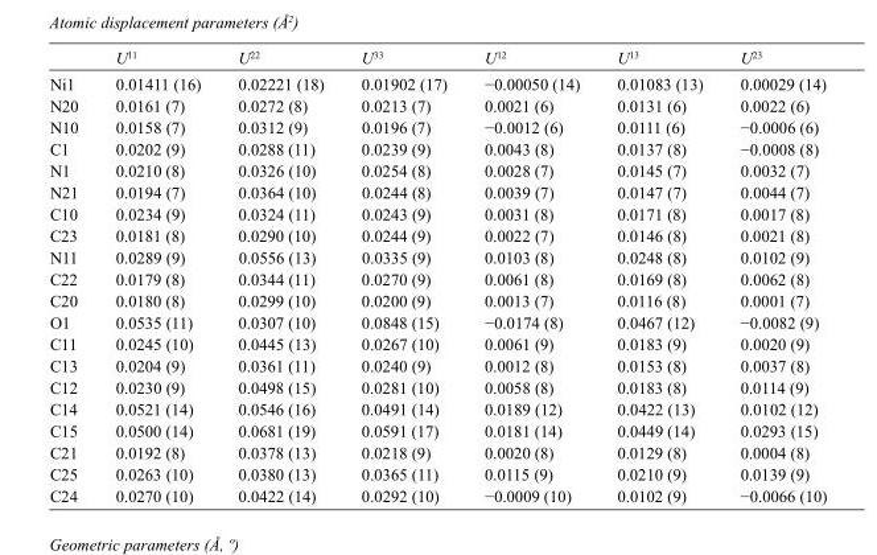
<table><thead><tr><td></td><td>U<sup>11</sup></td><td>U<sup>22</sup></td><td>U<sup>33</sup></td><td>U<sup>12</sup></td><td>U<sup>13</sup></td><td>U<sup>23</sup></td></tr></thead><tbody><tr><td>Ni1</td><td>0.01411 (16)</td><td>0.02221 (18)</td><td>0.01902 (17)</td><td>−0.00050 (14)</td><td>0.01083 (13)</td><td>0.00029 (14)</td></tr><tr><td>N20</td><td>0.0161 (7)</td><td>0.0272 (8)</td><td>0.0213 (7)</td><td>0.0021 (6)</td><td>0.0131 (6)</td><td>0.0022 (6)</td></tr><tr><td>N10</td><td>0.0158 (7)</td><td>0.0312 (9)</td><td>0.0196 (7)</td><td>−0.0012 (6)</td><td>0.0111 (6)</td><td>−0.0006 (6)</td></tr><tr><td>C1</td><td>0.0202 (9)</td><td>0.0288 (11)</td><td>0.0239 (9)</td><td>0.0043 (8)</td><td>0.0137 (8)</td><td>−0.0008 (8)</td></tr><tr><td>N1</td><td>0.0210 (8)</td><td>0.0326 (10)</td><td>0.0254 (8)</td><td>0.0028 (7)</td><td>0.0145 (7)</td><td>0.0032 (7)</td></tr><tr><td>N21</td><td>0.0194 (7)</td><td>0.0364 (10)</td><td>0.0244 (8)</td><td>0.0039 (7)</td><td>0.0147 (7)</td><td>0.0044 (7)</td></tr><tr><td>C10</td><td>0.0234 (9)</td><td>0.0324 (11)</td><td>0.0243 (9)</td><td>0.0031 (8)</td><td>0.0171 (8)</td><td>0.0017 (8)</td></tr><tr><td>C23</td><td>0.0181 (8)</td><td>0.0290 (10)</td><td>0.0244 (9)</td><td>0.0022 (7)</td><td>0.0146 (8)</td><td>0.0021 (8)</td></tr><tr><td>N11</td><td>0.0289 (9)</td><td>0.0556 (13)</td><td>0.0335 (9)</td><td>0.0103 (8)</td><td>0.0248 (8)</td><td>0.0102 (9)</td></tr><tr><td>C22</td><td>0.0179 (8)</td><td>0.0344 (11)</td><td>0.0270 (9)</td><td>0.0061 (8)</td><td>0.0169 (8)</td><td>0.0062 (8)</td></tr><tr><td>C20</td><td>0.0180 (8)</td><td>0.0299 (10)</td><td>0.0200 (9)</td><td>0.0013 (7)</td><td>0.0116 (8)</td><td>0.0001 (7)</td></tr><tr><td>O1</td><td>0.0535 (11)</td><td>0.0307 (10)</td><td>0.0848 (15)</td><td>−0.0174 (8)</td><td>0.0467 (12)</td><td>−0.0082 (9)</td></tr><tr><td>C11</td><td>0.0245 (10)</td><td>0.0445 (13)</td><td>0.0267 (10)</td><td>0.0061 (9)</td><td>0.0183 (9)</td><td>0.0020 (9)</td></tr><tr><td>C13</td><td>0.0204 (9)</td><td>0.0361 (11)</td><td>0.0240 (9)</td><td>0.0012 (8)</td><td>0.0153 (8)</td><td>0.0037 (8)</td></tr><tr><td>C12</td><td>0.0230 (9)</td><td>0.0498 (15)</td><td>0.0281 (10)</td><td>0.0058 (8)</td><td>0.0183 (8)</td><td>0.0114 (9)</td></tr><tr><td>C14</td><td>0.0521 (14)</td><td>0.0546 (16)</td><td>0.0491 (14)</td><td>0.0189 (12)</td><td>0.0422 (13)</td><td>0.0102 (12)</td></tr><tr><td>C15</td><td>0.0500 (14)</td><td>0.0681 (19)</td><td>0.0591 (17)</td><td>0.0181 (14)</td><td>0.0449 (14)</td><td>0.0293 (15)</td></tr><tr><td>C21</td><td>0.0192 (8)</td><td>0.0378 (13)</td><td>0.0218 (9)</td><td>0.0020 (8)</td><td>0.0129 (8)</td><td>0.0004 (8)</td></tr><tr><td>C25</td><td>0.0263 (10)</td><td>0.0380 (13)</td><td>0.0365 (11)</td><td>0.0115 (9)</td><td>0.0210 (9)</td><td>0.0139 (9)</td></tr><tr><td>C24</td><td>0.0270 (10)</td><td>0.0422 (14)</td><td>0.0292 (10)</td><td>−0.0009 (10)</td><td>0.0102 (9)</td><td>−0.0066 (10)</td></tr></tbody></table>